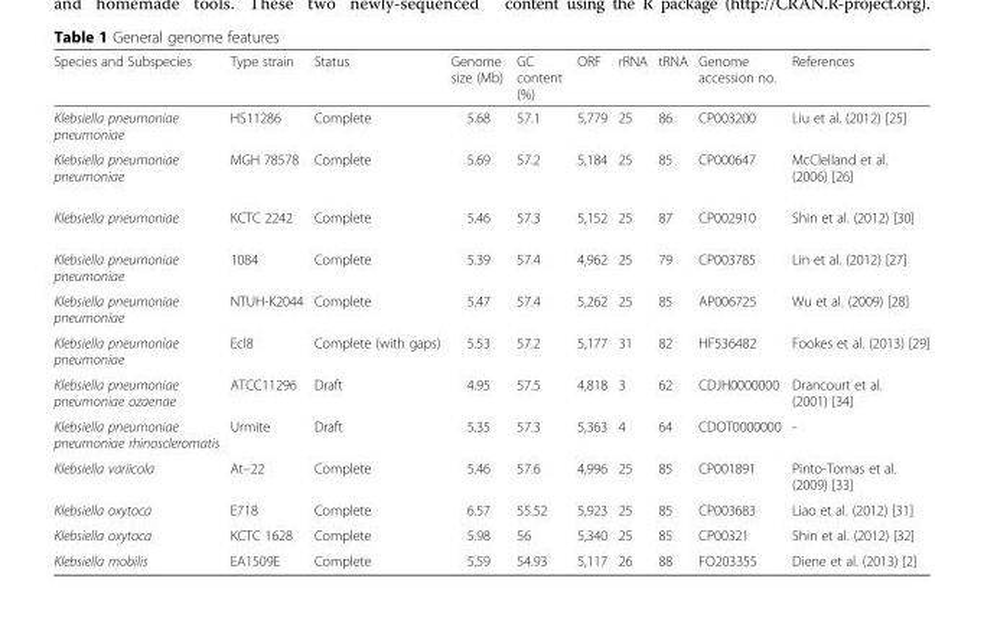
<table><thead><tr><td>Species and Subspecies</td><td>Type strain</td><td>Status</td><td>Genome size (Mb)</td><td>GC content (%)</td><td>ORF</td><td>rRNA</td><td>tRNA</td><td>Genome accession no.</td><td>References</td></tr></thead><tbody><tr><td>Klebsiella pneumoniae pneumoniae</td><td>HS11286</td><td>Complete</td><td>5.68</td><td>57.1</td><td>5,779</td><td>25</td><td>86</td><td>CP003200</td><td>Liu et al. (2012) [25]</td></tr><tr><td>Klebsiella pneumoniae pneumoniae</td><td>MGH 78578</td><td>Complete</td><td>5.69</td><td>57.2</td><td>5,184</td><td>25</td><td>85</td><td>CP000647</td><td>McClelland et al. (2006) [26]</td></tr><tr><td>Klebsiella pneumoniae</td><td>KCTC 2242</td><td>Complete</td><td>5.46</td><td>57.3</td><td>5,152</td><td>25</td><td>87</td><td>CP002910</td><td>Shin et al. (2012) [30]</td></tr><tr><td>Klebsiella pneumoniae pneumoniae</td><td>1084</td><td>Complete</td><td>5.39</td><td>57.4</td><td>4,962</td><td>25</td><td>79</td><td>CP003785</td><td>Lin et al. (2012) [27]</td></tr><tr><td>Klebsiella pneumoniae pneumoniae</td><td>NTUH-K2044</td><td>Complete</td><td>5.47</td><td>57.4</td><td>5,262</td><td>25</td><td>85</td><td>AP006725</td><td>Wu et al. (2009) [28]</td></tr><tr><td>Klebsiella pneumoniae pneumoniae</td><td>Ecl8</td><td>Complete (with gaps)</td><td>5.53</td><td>57.2</td><td>5,177</td><td>31</td><td>82</td><td>HF536482</td><td>Fookes et al. (2013) [29]</td></tr><tr><td>Klebsiella pneumoniae pneumoniae ozaenae</td><td>ATCC11296</td><td>Draft</td><td>4.95</td><td>57.5</td><td>4,818</td><td>3</td><td>62</td><td>CDJH0000000</td><td>Drancourt et al. (2001) [34]</td></tr><tr><td>Klebsiella pneumoniae pneumoniae rhinoscleromatis</td><td>Urmite</td><td>Draft</td><td>5.35</td><td>57.3</td><td>5,363</td><td>4</td><td>64</td><td>CDOT0000000</td><td>-</td></tr><tr><td>Klebsiella variicola</td><td>At–22</td><td>Complete</td><td>5.46</td><td>57.6</td><td>4,996</td><td>25</td><td>85</td><td>CP001891</td><td>Pinto-Tomas et al. (2009) [33]</td></tr><tr><td>Klebsiella oxytoca</td><td>E718</td><td>Complete</td><td>6.57</td><td>55.52</td><td>5,923</td><td>25</td><td>85</td><td>CP003683</td><td>Liao et al. (2012) [31]</td></tr><tr><td>Klebsiella oxytoca</td><td>KCTC 1628</td><td>Complete</td><td>5.98</td><td>56</td><td>5,340</td><td>25</td><td>85</td><td>CP00321</td><td>Shin et al. (2012) [32]</td></tr><tr><td>Klebsiella mobilis</td><td>EA1509E</td><td>Complete</td><td>5.59</td><td>54.93</td><td>5,117</td><td>26</td><td>88</td><td>FO203355</td><td>Diene et al. (2013) [2]</td></tr></tbody></table>